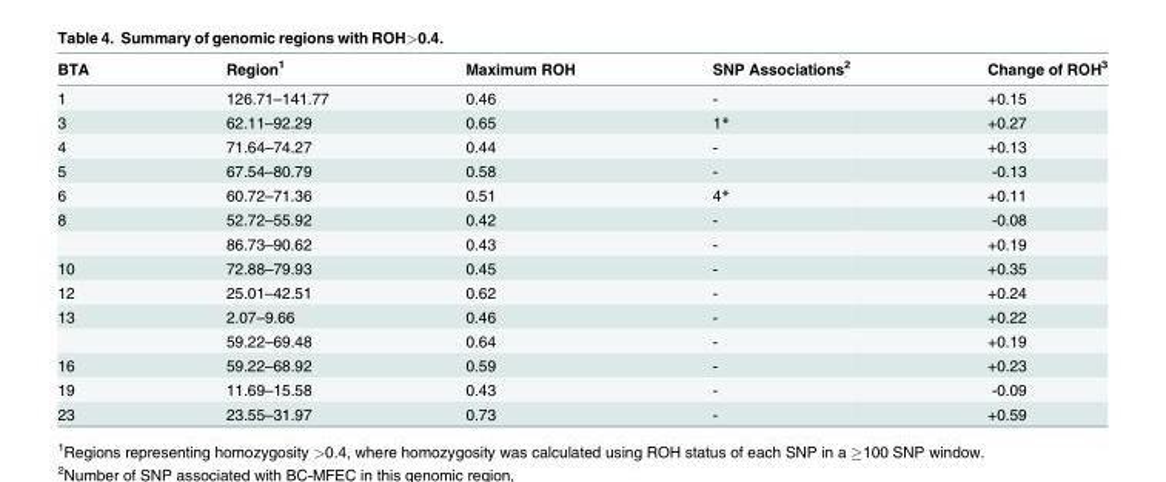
<table><thead><tr><td>BTA</td><td>Region<sup>1</sup></td><td>Maximum ROH</td><td>SNP Associations<sup>2</sup></td><td>Change of ROH<sup>3</sup></td></tr></thead><tbody><tr><td>1</td><td>126.71–141.77</td><td>0.46</td><td>-</td><td>+0.15</td></tr><tr><td>3</td><td>62.11–92.29</td><td>0.65</td><td>1*</td><td>+0.27</td></tr><tr><td>4</td><td>71.64–74.27</td><td>0.44</td><td>-</td><td>+0.13</td></tr><tr><td>5</td><td>67.54–80.79</td><td>0.58</td><td>-</td><td>-0.13</td></tr><tr><td>6</td><td>60.72–71.36</td><td>0.51</td><td>4*</td><td>+0.11</td></tr><tr><td rowspan="2">8</td><td>52.72–55.92</td><td>0.42</td><td>-</td><td>-0.08</td></tr><tr><td>86.73–90.62</td><td>0.43</td><td>-</td><td>+0.19</td></tr><tr><td>10</td><td>72.88–79.93</td><td>0.45</td><td>-</td><td>+0.35</td></tr><tr><td>12</td><td>25.01–42.51</td><td>0.62</td><td>-</td><td>+0.24</td></tr><tr><td rowspan="2">13</td><td>2.07–9.66</td><td>0.46</td><td>-</td><td>+0.22</td></tr><tr><td>59.22–69.48</td><td>0.64</td><td>-</td><td>+0.19</td></tr><tr><td>16</td><td>59.22–68.92</td><td>0.59</td><td>-</td><td>+0.23</td></tr><tr><td>19</td><td>11.69–15.58</td><td>0.43</td><td>-</td><td>-0.09</td></tr><tr><td>23</td><td>23.55–31.97</td><td>0.73</td><td>-</td><td>+0.59</td></tr></tbody></table>